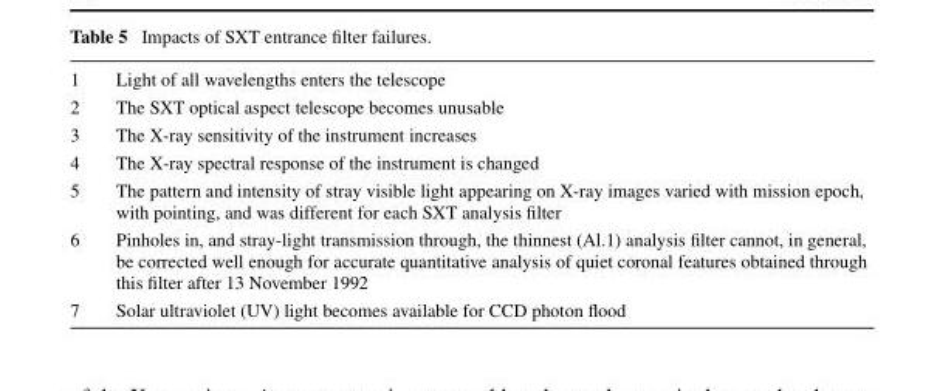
<table><tbody><tr><td>1</td><td>Light of all wavelengths enters the telescope</td></tr><tr><td>2</td><td>The SXT optical aspect telescope becomes unusable</td></tr><tr><td>3</td><td>The X-ray sensitivity of the instrument increases</td></tr><tr><td>4</td><td>The X-ray spectral response of the instrument is changed</td></tr><tr><td>5</td><td>The pattern and intensity of stray visible light appearing on X-ray images varied with mission epoch, with pointing, and was different for each SXT analysis filter</td></tr><tr><td>6</td><td>Pinholes in, and stray-light transmission through, the thinnest (Al.1) analysis filter cannot, in general, be corrected well enough for accurate quantitative analysis of quiet coronal features obtained through this filter after 13 November 1992</td></tr><tr><td>7</td><td>Solar ultraviolet (UV) light becomes available for CCD photon flood</td></tr></tbody></table>